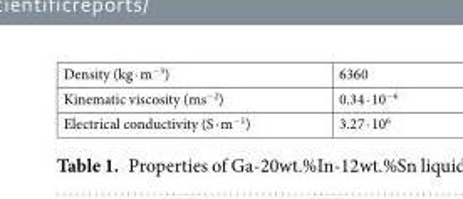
<table><tbody><tr><td>Density (kg · m<sup>−3</sup>)</td><td>6360</td></tr><tr><td>Kinematic viscosity (ms<sup>−2</sup>)</td><td>0.34 · 10<sup>−6</sup></td></tr><tr><td>Electrical conductivity (S · m<sup>−1</sup>)</td><td>3.27 · 10<sup>6</sup></td></tr></tbody></table>